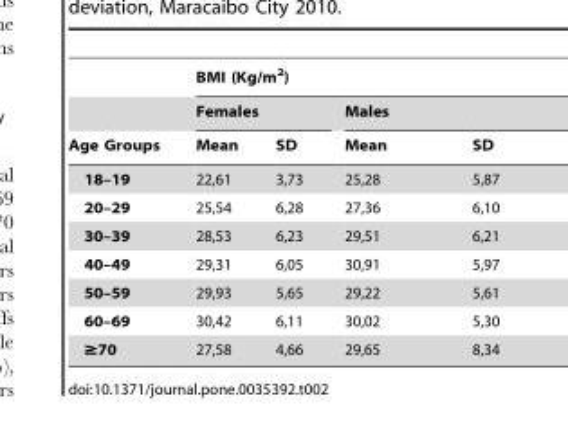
<table><thead><tr><td rowspan="3">Age Groups</td><td colspan="4">BMI (Kg/m<sup>2</sup>)</td></tr><tr><td colspan="2">Females</td><td colspan="2">Males</td></tr><tr><td>Mean</td><td>SD</td><td>Mean</td><td>SD</td></tr></thead><tbody><tr><td>18–19</td><td>22,61</td><td>3,73</td><td>25,28</td><td>5,87</td></tr><tr><td>20–29</td><td>25,54</td><td>6,28</td><td>27,36</td><td>6,10</td></tr><tr><td>30–39</td><td>28,53</td><td>6,23</td><td>29,51</td><td>6,21</td></tr><tr><td>40–49</td><td>29,31</td><td>6,05</td><td>30,91</td><td>5,97</td></tr><tr><td>50–59</td><td>29,93</td><td>5,65</td><td>29,22</td><td>5,61</td></tr><tr><td>60–69</td><td>30,42</td><td>6,11</td><td>30,02</td><td>5,30</td></tr><tr><td>≥70</td><td>27,58</td><td>4,66</td><td>29,65</td><td>8,34</td></tr></tbody></table>